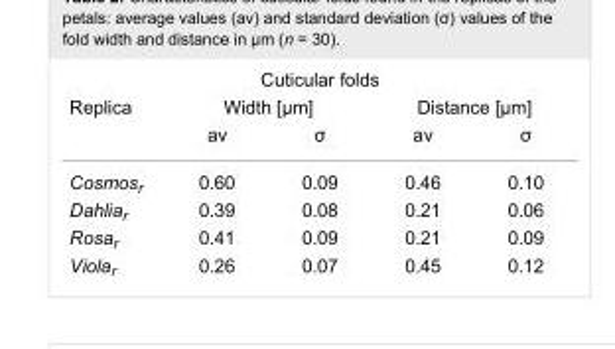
<table><tbody><tr><td colspan="5">Cuticular folds</td></tr><tr><td rowspan="2">Replica</td><td colspan="2">Width [µm]</td><td colspan="2">Distance [µm]</td></tr><tr><td>av</td><td>σ</td><td>av</td><td>σ</td></tr><tr><td>Cosmos<sub>r</sub></td><td>0.60</td><td>0.09</td><td>0.46</td><td>0.10</td></tr><tr><td>Dahlia<sub>r</sub></td><td>0.39</td><td>0.08</td><td>0.21</td><td>0.06</td></tr><tr><td>Rosa<sub>r</sub></td><td>0.41</td><td>0.09</td><td>0.21</td><td>0.09</td></tr><tr><td>Viola<sub>r</sub></td><td>0.26</td><td>0.07</td><td>0.45</td><td>0.12</td></tr></tbody></table>